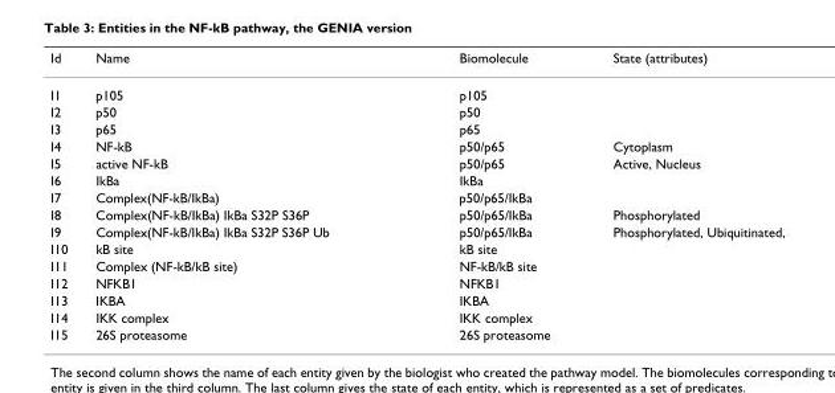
<table><thead><tr><td>Id</td><td>Name</td><td>Biomolecule</td><td>State (attributes)</td></tr></thead><tbody><tr><td>I1</td><td>p105</td><td>p105</td><td></td></tr><tr><td>I2</td><td>p50</td><td>p50</td><td></td></tr><tr><td>I3</td><td>p65</td><td>p65</td><td></td></tr><tr><td>I4</td><td>NF-kB</td><td>p50/p65</td><td>Cytoplasm</td></tr><tr><td>I5</td><td>active NF-kB</td><td>p50/p65</td><td>Active, Nucleus</td></tr><tr><td>I6</td><td>IkBa</td><td>IkBa</td><td></td></tr><tr><td>I7</td><td>Complex(NF-kB/IkBa)</td><td>p50/p65/IkBa</td><td></td></tr><tr><td>I8</td><td>Complex(NF-kB/IkBa) IkBa S32P S36P</td><td>p50/p65/IkBa</td><td>Phosphorylated</td></tr><tr><td>I9</td><td>Complex(NF-kB/IkBa) IkBa S32P S36P Ub</td><td>p50/p65/IkBa</td><td>Phosphorylated, Ubiquitinated,</td></tr><tr><td>I10</td><td>kB site</td><td>kB site</td><td></td></tr><tr><td>I11</td><td>Complex (NF-kB/kB site)</td><td>NF-kB/kB site</td><td></td></tr><tr><td>I12</td><td>NFKB1</td><td>NFKB1</td><td></td></tr><tr><td>I13</td><td>IKBA</td><td>IKBA</td><td></td></tr><tr><td>I14</td><td>IKK complex</td><td>IKK complex</td><td></td></tr><tr><td>I15</td><td>26S proteasome</td><td>26S proteasome</td><td></td></tr></tbody></table>